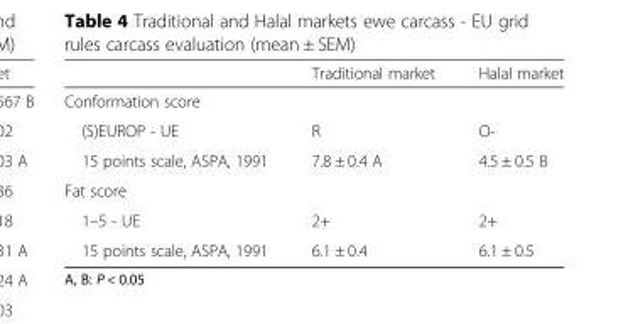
<table><thead><tr><td></td><td>Traditional market</td><td>Halal market</td></tr></thead><tbody><tr><td colspan="3">Conformation score</td></tr><tr><td>(S)EUROP - UE</td><td>R</td><td>O-</td></tr><tr><td>15 points scale, ASPA, 1991</td><td>7.8 ± 0.4 A</td><td>4.5 ± 0.5 B</td></tr><tr><td colspan="3">Fat score</td></tr><tr><td>1–5 - UE</td><td>2+</td><td>2+</td></tr><tr><td>15 points scale, ASPA, 1991</td><td>6.1 ± 0.4</td><td>6.1 ± 0.5</td></tr></tbody></table>